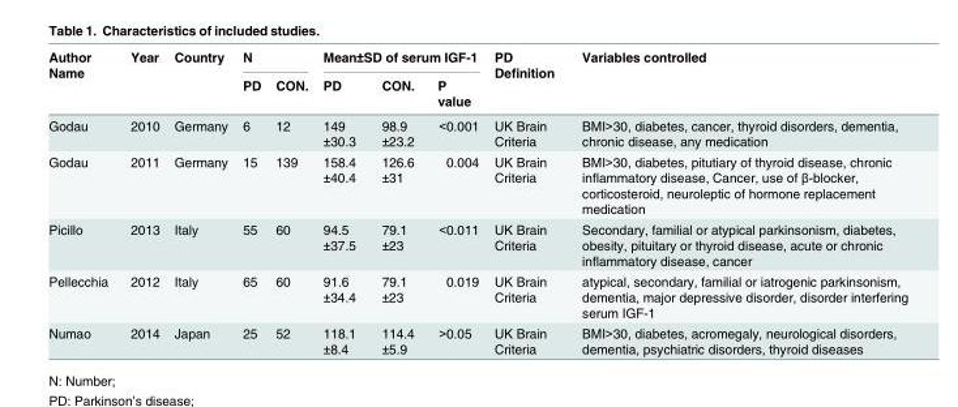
<table><thead><tr><td rowspan="2">Author Name</td><td rowspan="2">Year</td><td rowspan="2">Country</td><td colspan="2">N</td><td colspan="3">Mean±SD of serum IGF-1</td><td rowspan="2">PD Definition</td><td rowspan="2">Variables controlled</td></tr><tr><td>PD</td><td>CON.</td><td>PD</td><td>CON.</td><td>P value</td></tr></thead><tbody><tr><td>Godau</td><td>2010</td><td>Germany</td><td>6</td><td>12</td><td>149 ±30.3</td><td>98.9 ±23.2</td><td>&lt;0.001</td><td>UK Brain Criteria</td><td>BMI&gt;30, diabetes, cancer, thyroid disorders, dementia, chronic disease, any medication</td></tr><tr><td>Godau</td><td>2011</td><td>Germany</td><td>15</td><td>139</td><td>158.4 ±40.4</td><td>126.6 ±31</td><td>0.004</td><td>UK Brain Criteria</td><td>BMI&gt;30, diabetes, pitutiary of thyroid disease, chronic inflammatory disease, Cancer, use of β-blocker, corticosteroid, neuroleptic of hormone replacement medication</td></tr><tr><td>Picillo</td><td>2013</td><td>Italy</td><td>55</td><td>60</td><td>94.5 ±37.5</td><td>79.1 ±23</td><td>&lt;0.011</td><td>UK Brain Criteria</td><td>Secondary, familial or atypical parkinsonism, diabetes, obesity, pituitary or thyroid disease, acute or chronic inflammatory disease, cancer</td></tr><tr><td>Pellecchia</td><td>2012</td><td>Italy</td><td>65</td><td>60</td><td>91.6 ±34.4</td><td>79.1 ±23</td><td>0.019</td><td>UK Brain Criteria</td><td>atypical, secondary, familial or iatrogenic parkinsonism, dementia, major depressive disorder, disorder interfering serum IGF-1</td></tr><tr><td>Numao</td><td>2014</td><td>Japan</td><td>25</td><td>52</td><td>118.1 ±8.4</td><td>114.4 ±5.9</td><td>&gt;0.05</td><td>UK Brain Criteria</td><td>BMI&gt;30, diabetes, acromegaly, neurological disorders, dementia, psychiatric disorders, thyroid diseases</td></tr></tbody></table>